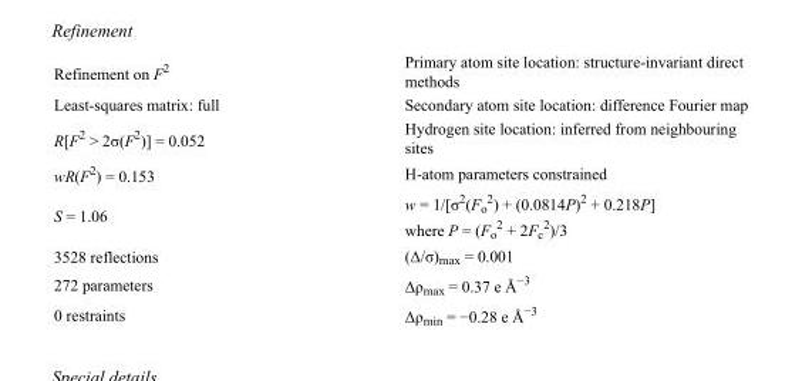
<table><tbody><tr><td>Refinement on F<sup>2</sup></td><td>Primary atom site location: structure-invariant direct methods</td></tr><tr><td>Least-squares matrix: full</td><td>Secondary atom site location: difference Fourier map</td></tr><tr><td>R[F<sup>2</sup> &gt; 2σ(F<sup>2</sup>)] = 0.052</td><td>Hydrogen site location: inferred from neighbouring sites</td></tr><tr><td>wR(F<sup>2</sup>) = 0.153</td><td>H-atom parameters constrained</td></tr><tr><td>S = 1.06</td><td>w = 1/[σ<sup>2</sup>(F<sub>o</sub> <sup>2</sup>) + (0.0814P)<sup>2</sup> + 0.218P] where P = (F<sub>o</sub> <sup>2</sup> + 2F<sub>c</sub> <sup>2</sup>)/3</td></tr><tr><td>3528 reflections</td><td>(Δ/σ)<sub>max</sub> = 0.001</td></tr><tr><td>272 parameters</td><td>Δρ<sub>max</sub> = 0.37 e Å<sup>−3</sup></td></tr><tr><td>0 restraints</td><td>Δρ<sub>min</sub> = −0.28 e Å<sup>−3</sup></td></tr></tbody></table>